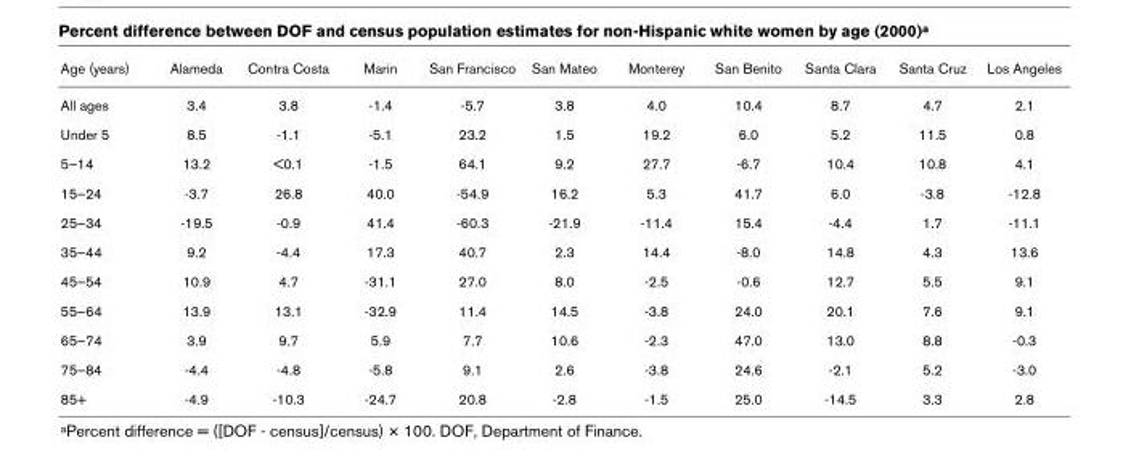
<table><thead><tr><td>Age (years)</td><td>Alameda</td><td>Contra Costa</td><td>Marin</td><td>San Francisco</td><td>San Mateo</td><td>Monterey</td><td>San Benito</td><td>Santa Clara</td><td>Santa Cruz</td><td>Los Angeles</td></tr></thead><tbody><tr><td>All ages</td><td>3.4</td><td>3.8</td><td>-1.4</td><td>-5.7</td><td>3.8</td><td>4.0</td><td>10.4</td><td>8.7</td><td>4.7</td><td>2.1</td></tr><tr><td>Under 5</td><td>8.5</td><td>-1.1</td><td>-5.1</td><td>23.2</td><td>1.5</td><td>19.2</td><td>6.0</td><td>5.2</td><td>11.5</td><td>0.8</td></tr><tr><td>5–14</td><td>13.2</td><td>&lt;0.1</td><td>-1.5</td><td>64.1</td><td>9.2</td><td>27.7</td><td>-6.7</td><td>10.4</td><td>10.8</td><td>4.1</td></tr><tr><td>15–24</td><td>-3.7</td><td>26.8</td><td>40.0</td><td>-54.9</td><td>16.2</td><td>5.3</td><td>41.7</td><td>6.0</td><td>-3.8</td><td>-12.8</td></tr><tr><td>25–34</td><td>-19.5</td><td>-0.9</td><td>41.4</td><td>-60.3</td><td>-21.9</td><td>-11.4</td><td>15.4</td><td>-4.4</td><td>1.7</td><td>-11.1</td></tr><tr><td>35–44</td><td>9.2</td><td>-4.4</td><td>17.3</td><td>40.7</td><td>2.3</td><td>14.4</td><td>-8.0</td><td>14.8</td><td>4.3</td><td>13.6</td></tr><tr><td>45–54</td><td>10.9</td><td>4.7</td><td>-31.1</td><td>27.0</td><td>8.0</td><td>-2.5</td><td>-0.6</td><td>12.7</td><td>5.5</td><td>9.1</td></tr><tr><td>55–64</td><td>13.9</td><td>13.1</td><td>-32.9</td><td>11.4</td><td>14.5</td><td>-3.8</td><td>24.0</td><td>20.1</td><td>7.6</td><td>9.1</td></tr><tr><td>65–74</td><td>3.9</td><td>9.7</td><td>5.9</td><td>7.7</td><td>10.6</td><td>-2.3</td><td>47.0</td><td>13.0</td><td>8.8</td><td>-0.3</td></tr><tr><td>75–84</td><td>-4.4</td><td>-4.8</td><td>-5.8</td><td>9.1</td><td>2.6</td><td>-3.8</td><td>24.6</td><td>-2.1</td><td>5.2</td><td>-3.0</td></tr><tr><td>85+</td><td>-4.9</td><td>-10.3</td><td>-24.7</td><td>20.8</td><td>-2.8</td><td>-1.5</td><td>25.0</td><td>-14.5</td><td>3.3</td><td>2.8</td></tr></tbody></table>